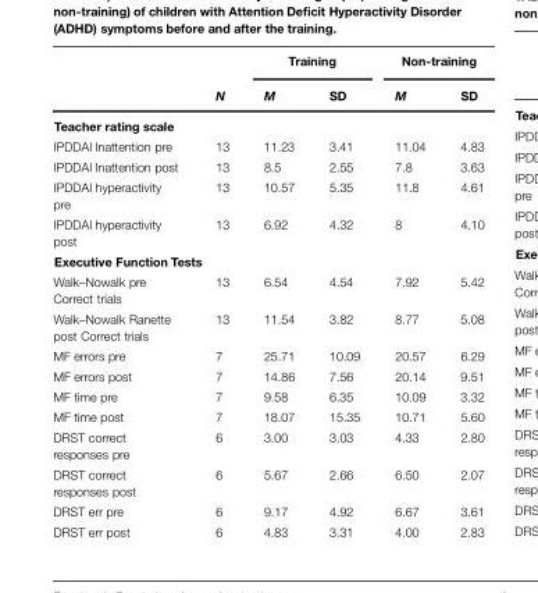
<table><thead><tr><td rowspan="2"></td><td rowspan="2">N</td><td colspan="2">Training</td><td colspan="2">Non-training</td></tr><tr><td>M</td><td>SD</td><td>M</td><td>SD</td></tr></thead><tbody><tr><td colspan="6">Teacher rating scale</td></tr><tr><td>IPDDAI Inattention pre</td><td>13</td><td>11.23</td><td>3.41</td><td>11.04</td><td>4.83</td></tr><tr><td>IPDDAI Inattention post</td><td>13</td><td>8.5</td><td>2.55</td><td>7.8</td><td>3.63</td></tr><tr><td>IPDDAI hyperactivity pre</td><td>13</td><td>10.57</td><td>5.35</td><td>11.8</td><td>4.61</td></tr><tr><td>IPDDAI hyperactivity post</td><td>13</td><td>6.92</td><td>4.32</td><td>8</td><td>4.10</td></tr><tr><td colspan="6">Executive Function Tests</td></tr><tr><td>Walk–Nowalk pre Correct trials</td><td>13</td><td>6.54</td><td>4.54</td><td>7.92</td><td>5.42</td></tr><tr><td>Walk–Nowalk Ranette post Correct trials</td><td>13</td><td>11.54</td><td>3.82</td><td>8.77</td><td>5.08</td></tr><tr><td>MF errors pre</td><td>7</td><td>25.71</td><td>10.09</td><td>20.57</td><td>6.29</td></tr><tr><td>MF errors post</td><td>7</td><td>14.86</td><td>7.56</td><td>20.14</td><td>9.51</td></tr><tr><td>MF time pre</td><td>7</td><td>9.58</td><td>6.35</td><td>10.09</td><td>3.32</td></tr><tr><td>MF time post</td><td>7</td><td>18.07</td><td>15.35</td><td>10.71</td><td>5.60</td></tr><tr><td>DRST correct responses pre</td><td>6</td><td>3.00</td><td>3.03</td><td>4.33</td><td>2.80</td></tr><tr><td>DRST correct responses post</td><td>6</td><td>5.67</td><td>2.66</td><td>6.50</td><td>2.07</td></tr><tr><td>DRST err pre</td><td>6</td><td>9.17</td><td>4.92</td><td>6.67</td><td>3.61</td></tr><tr><td>DRST err post</td><td>6</td><td>4.83</td><td>3.31</td><td>4.00</td><td>2.83</td></tr></tbody></table>